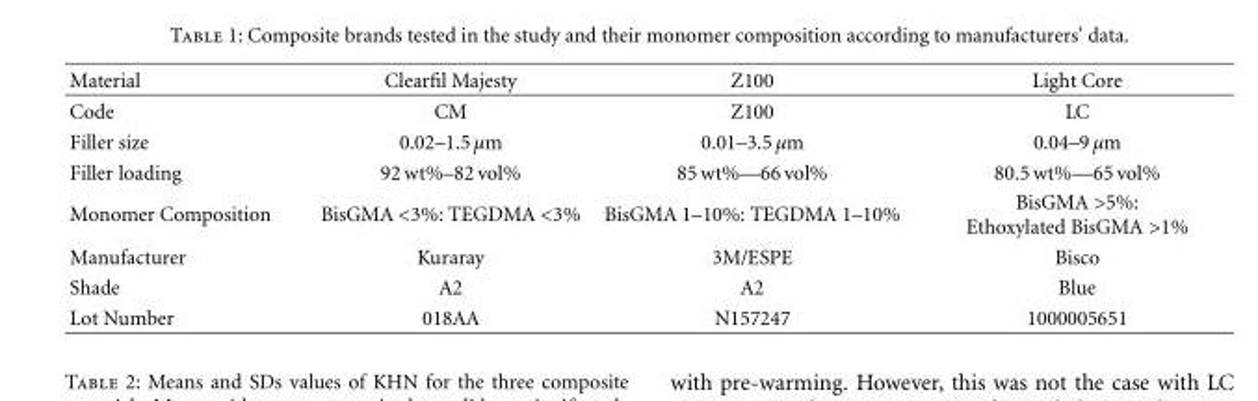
<table><thead><tr><td>Material</td><td>Clearfil Majesty</td><td>Z100</td><td>Light Core</td></tr></thead><tbody><tr><td>Code</td><td>CM</td><td>Z100</td><td>LC</td></tr><tr><td>Filler size</td><td>0.02–1.5 µm</td><td>0.01–3.5 µm</td><td>0.04–9 µm</td></tr><tr><td>Filler loading</td><td>92 wt%–82 vol%</td><td>85 wt%—66 vol%</td><td>80.5 wt%—65 vol%</td></tr><tr><td>Monomer Composition</td><td>BisGMA &lt;3%: TEGDMA &lt;3%</td><td>BisGMA 1–10%: TEGDMA 1–10%</td><td>BisGMA &gt;5%: Ethoxylated BisGMA &gt;1%</td></tr><tr><td>Manufacturer</td><td>Kuraray</td><td>3M/ESPE</td><td>Bisco</td></tr><tr><td>Shade</td><td>A2</td><td>A2</td><td>Blue</td></tr><tr><td>Lot Number</td><td>018AA</td><td>N157247</td><td>1000005651</td></tr></tbody></table>